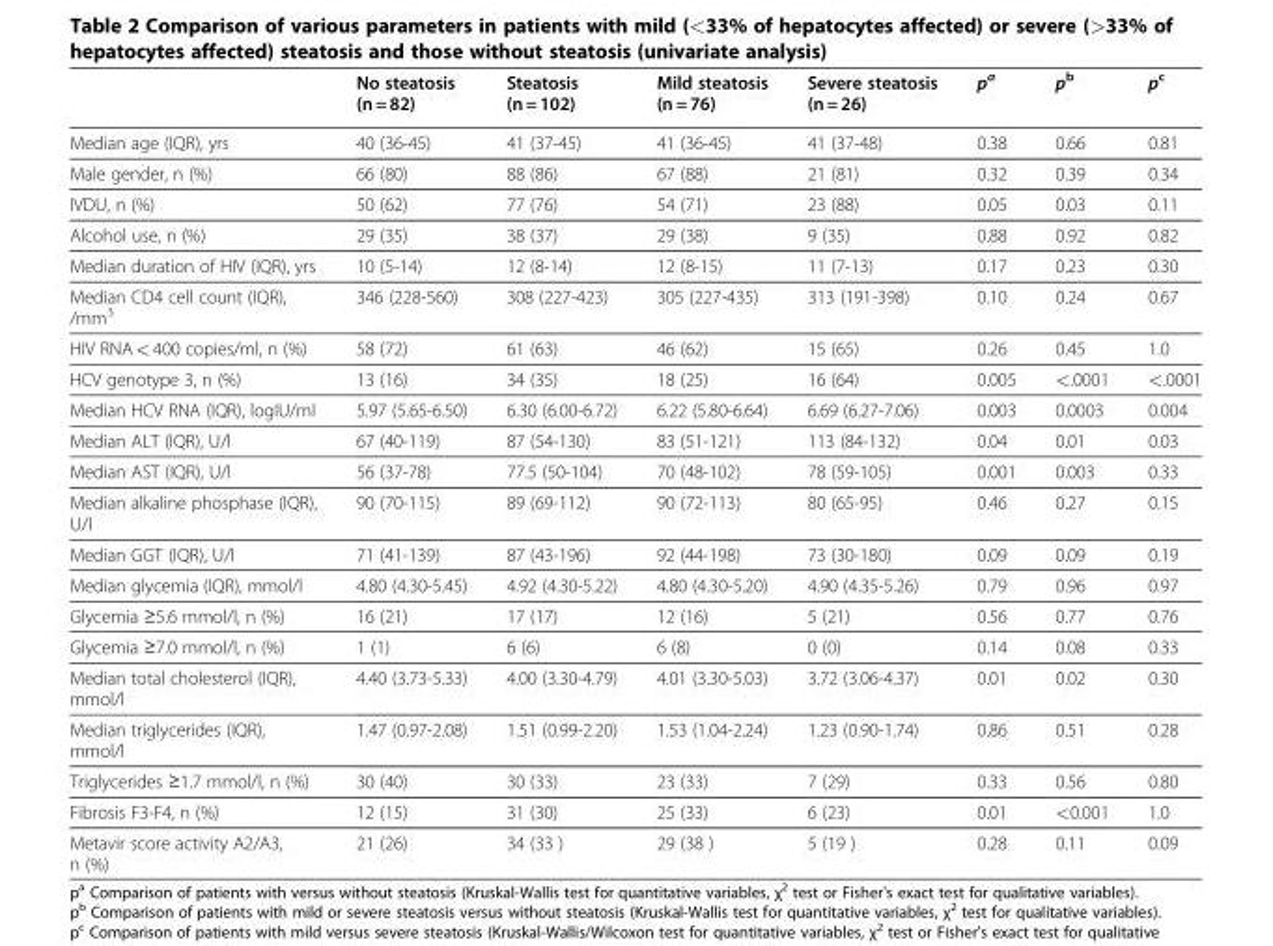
<table><thead><tr><td></td><td>No steatosis (n = 82)</td><td>Steatosis (n = 102)</td><td>Mild steatosis (n = 76)</td><td>Severe steatosis (n = 26)</td><td>p<sup>a</sup></td><td>p<sup>b</sup></td><td>p<sup>c</sup></td></tr></thead><tbody><tr><td>Median age (IQR), yrs</td><td>40 (36-45)</td><td>41 (37-45)</td><td>41 (36-45)</td><td>41 (37-48)</td><td>0.38</td><td>0.66</td><td>0.81</td></tr><tr><td>Male gender, n (%)</td><td>66 (80)</td><td>88 (86)</td><td>67 (88)</td><td>21 (81)</td><td>0.32</td><td>0.39</td><td>0.34</td></tr><tr><td>IVDU, n (%)</td><td>50 (62)</td><td>77 (76)</td><td>54 (71)</td><td>23 (88)</td><td>0.05</td><td>0.03</td><td>0.11</td></tr><tr><td>Alcohol use, n (%)</td><td>29 (35)</td><td>38 (37)</td><td>29 (38)</td><td>9 (35)</td><td>0.88</td><td>0.92</td><td>0.82</td></tr><tr><td>Median duration of HIV (IQR), yrs</td><td>10 (5-14)</td><td>12 (8-14)</td><td>12 (8-15)</td><td>11 (7-13)</td><td>0.17</td><td>0.23</td><td>0.30</td></tr><tr><td>Median CD4 cell count (IQR), /mm<sup>3</sup></td><td>346 (228-560)</td><td>308 (227-423)</td><td>305 (227-435)</td><td>313 (191-398)</td><td>0.10</td><td>0.24</td><td>0.67</td></tr><tr><td>HIV RNA &lt; 400 copies/ml, n (%)</td><td>58 (72)</td><td>61 (63)</td><td>46 (62)</td><td>15 (65)</td><td>0.26</td><td>0.45</td><td>1.0</td></tr><tr><td>HCV genotype 3, n (%)</td><td>13 (16)</td><td>34 (35)</td><td>18 (25)</td><td>16 (64)</td><td>0.005</td><td>&lt;.0001</td><td>&lt;.0001</td></tr><tr><td>Median HCV RNA (IQR), logIU/ml</td><td>5.97 (5.65-6.50)</td><td>6.30 (6.00-6.72)</td><td>6.22 (5.80-6.64)</td><td>6.69 (6.27-7.06)</td><td>0.003</td><td>0.0003</td><td>0.004</td></tr><tr><td>Median ALT (IQR), U/l</td><td>67 (40-119)</td><td>87 (54-130)</td><td>83 (51-121)</td><td>113 (84-132)</td><td>0.04</td><td>0.01</td><td>0.03</td></tr><tr><td>Median AST (IQR), U/l</td><td>56 (37-78)</td><td>77.5 (50-104)</td><td>70 (48-102)</td><td>78 (59-105)</td><td>0.001</td><td>0.003</td><td>0.33</td></tr><tr><td>Median alkaline phosphase (IQR), U/l</td><td>90 (70-115)</td><td>89 (69-112)</td><td>90 (72-113)</td><td>80 (65-95)</td><td>0.46</td><td>0.27</td><td>0.15</td></tr><tr><td>Median GGT (IQR), U/l</td><td>71 (41-139)</td><td>87 (43-196)</td><td>92 (44-198)</td><td>73 (30-180)</td><td>0.09</td><td>0.09</td><td>0.19</td></tr><tr><td>Median glycemia (IQR), mmol/l</td><td>4.80 (4.30-5.45)</td><td>4.92 (4.30-5.22)</td><td>4.80 (4.30-5.20)</td><td>4.90 (4.35-5.26)</td><td>0.79</td><td>0.96</td><td>0.97</td></tr><tr><td>Glycemia ≥5.6 mmol/l, n (%)</td><td>16 (21)</td><td>17 (17)</td><td>12 (16)</td><td>5 (21)</td><td>0.56</td><td>0.77</td><td>0.76</td></tr><tr><td>Glycemia ≥7.0 mmol/l, n (%)</td><td>1 (1)</td><td>6 (6)</td><td>6 (8)</td><td>0 (0)</td><td>0.14</td><td>0.08</td><td>0.33</td></tr><tr><td>Median total cholesterol (IQR), mmol/l</td><td>4.40 (3.73-5.33)</td><td>4.00 (3.30-4.79)</td><td>4.01 (3.30-5.03)</td><td>3.72 (3.06-4.37)</td><td>0.01</td><td>0.02</td><td>0.30</td></tr><tr><td>Median triglycerides (IQR), mmol/l</td><td>1.47 (0.97-2.08)</td><td>1.51 (0.99-2.20)</td><td>1.53 (1.04-2.24)</td><td>1.23 (0.90-1.74)</td><td>0.86</td><td>0.51</td><td>0.28</td></tr><tr><td>Triglycerides ≥1.7 mmol/l, n (%)</td><td>30 (40)</td><td>30 (33)</td><td>23 (33)</td><td>7 (29)</td><td>0.33</td><td>0.56</td><td>0.80</td></tr><tr><td>Fibrosis F3-F4, n (%)</td><td>12 (15)</td><td>31 (30)</td><td>25 (33)</td><td>6 (23)</td><td>0.01</td><td>&lt;0.001</td><td>1.0</td></tr><tr><td>Metavir score activity A2/A3, n (%)</td><td>21 (26)</td><td>34 (33 )</td><td>29 (38 )</td><td>5 (19 )</td><td>0.28</td><td>0.11</td><td>0.09</td></tr></tbody></table>